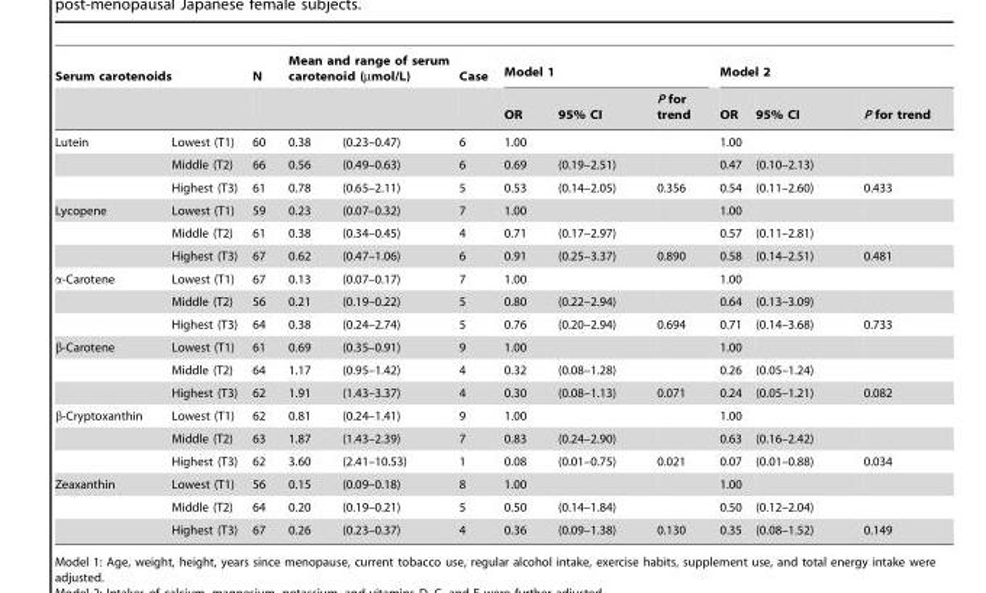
<table><thead><tr><td colspan="2">Serum carotenoids</td><td rowspan="2">N</td><td colspan="2">Mean and range of serum carotenoid (µmol/L)</td><td rowspan="2">Case</td><td colspan="3">Model 1</td><td colspan="3">Model 2</td></tr><tr><td></td><td></td><td></td><td></td><td>OR</td><td>95% CI</td><td>P for trend</td><td>OR</td><td>95% CI</td><td>P for trend</td></tr></thead><tbody><tr><td rowspan="3">Lutein</td><td>Lowest (T1)</td><td>60</td><td>0.38</td><td>(0.23–0.47)</td><td>6</td><td>1.00</td><td></td><td></td><td>1.00</td><td></td><td></td></tr><tr><td>Middle (T2)</td><td>66</td><td>0.56</td><td>(0.49–0.63)</td><td>6</td><td>0.69</td><td>(0.19–2.51)</td><td></td><td>0.47</td><td>(0.10–2.13)</td><td></td></tr><tr><td>Highest (T3)</td><td>61</td><td>0.78</td><td>(0.65–2.11)</td><td>5</td><td>0.53</td><td>(0.14–2.05)</td><td>0.356</td><td>0.54</td><td>(0.11–2.60)</td><td>0.433</td></tr><tr><td rowspan="3">Lycopene</td><td>Lowest (T1)</td><td>59</td><td>0.23</td><td>(0.07–0.32)</td><td>7</td><td>1.00</td><td></td><td></td><td>1.00</td><td></td><td></td></tr><tr><td>Middle (T2)</td><td>61</td><td>0.38</td><td>(0.34–0.45)</td><td>4</td><td>0.71</td><td>(0.17–2.97)</td><td></td><td>0.57</td><td>(0.11–2.81)</td><td></td></tr><tr><td>Highest (T3)</td><td>67</td><td>0.62</td><td>(0.47–1.06)</td><td>6</td><td>0.91</td><td>(0.25–3.37)</td><td>0.890</td><td>0.58</td><td>(0.14–2.51)</td><td>0.481</td></tr><tr><td rowspan="3">α-Carotene</td><td>Lowest (T1)</td><td>67</td><td>0.13</td><td>(0.07–0.17)</td><td>7</td><td>1.00</td><td></td><td></td><td>1.00</td><td></td><td></td></tr><tr><td>Middle (T2)</td><td>56</td><td>0.21</td><td>(0.19–0.22)</td><td>5</td><td>0.80</td><td>(0.22–2.94)</td><td></td><td>0.64</td><td>(0.13–3.09)</td><td></td></tr><tr><td>Highest (T3)</td><td>64</td><td>0.38</td><td>(0.24–2.74)</td><td>5</td><td>0.76</td><td>(0.20–2.94)</td><td>0.694</td><td>0.71</td><td>(0.14–3.68)</td><td>0.733</td></tr><tr><td rowspan="3">β-Carotene</td><td>Lowest (T1)</td><td>61</td><td>0.69</td><td>(0.35–0.91)</td><td>9</td><td>1.00</td><td></td><td></td><td>1.00</td><td></td><td></td></tr><tr><td>Middle (T2)</td><td>64</td><td>1.17</td><td>(0.95–1.42)</td><td>4</td><td>0.32</td><td>(0.08–1.28)</td><td></td><td>0.26</td><td>(0.05–1.24)</td><td></td></tr><tr><td>Highest (T3)</td><td>62</td><td>1.91</td><td>(1.43–3.37)</td><td>4</td><td>0.30</td><td>(0.08–1.13)</td><td>0.071</td><td>0.24</td><td>(0.05–1.21)</td><td>0.082</td></tr><tr><td rowspan="3">β-Cryptoxanthin</td><td>Lowest (T1)</td><td>62</td><td>0.81</td><td>(0.24–1.41)</td><td>9</td><td>1.00</td><td></td><td></td><td>1.00</td><td></td><td></td></tr><tr><td>Middle (T2)</td><td>63</td><td>1.87</td><td>(1.43–2.39)</td><td>7</td><td>0.83</td><td>(0.24–2.90)</td><td></td><td>0.63</td><td>(0.16–2.42)</td><td></td></tr><tr><td>Highest (T3)</td><td>62</td><td>3.60</td><td>(2.41–10.53)</td><td>1</td><td>0.08</td><td>(0.01–0.75)</td><td>0.021</td><td>0.07</td><td>(0.01–0.88)</td><td>0.034</td></tr><tr><td rowspan="3">Zeaxanthin</td><td>Lowest (T1)</td><td>56</td><td>0.15</td><td>(0.09–0.18)</td><td>8</td><td>1.00</td><td></td><td></td><td>1.00</td><td></td><td></td></tr><tr><td>Middle (T2)</td><td>64</td><td>0.20</td><td>(0.19–0.21)</td><td>5</td><td>0.50</td><td>(0.14–1.84)</td><td></td><td>0.50</td><td>(0.12–2.04)</td><td></td></tr><tr><td>Highest (T3)</td><td>67</td><td>0.26</td><td>(0.23–0.37)</td><td>4</td><td>0.36</td><td>(0.09–1.38)</td><td>0.130</td><td>0.35</td><td>(0.08–1.52)</td><td>0.149</td></tr></tbody></table>